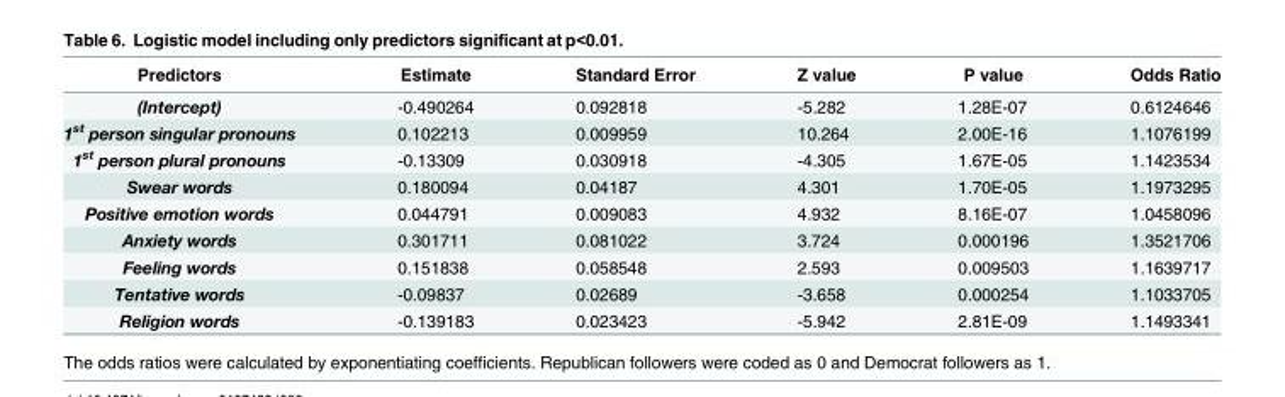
<table><thead><tr><td>Predictors</td><td>Estimate</td><td>Standard Error</td><td>Z value</td><td>P value</td><td>Odds Ratio</td></tr></thead><tbody><tr><td>(Intercept)</td><td>-0.490264</td><td>0.092818</td><td>-5.282</td><td>1.28E-07</td><td>0.6124646</td></tr><tr><td>1<sup>st</sup> person singular pronouns</td><td>0.102213</td><td>0.009959</td><td>10.264</td><td>2.00E-16</td><td>1.1076199</td></tr><tr><td>1<sup>st</sup> person plural pronouns</td><td>-0.13309</td><td>0.030918</td><td>-4.305</td><td>1.67E-05</td><td>1.1423534</td></tr><tr><td>Swear words</td><td>0.180094</td><td>0.04187</td><td>4.301</td><td>1.70E-05</td><td>1.1973295</td></tr><tr><td>Positive emotion words</td><td>0.044791</td><td>0.009083</td><td>4.932</td><td>8.16E-07</td><td>1.0458096</td></tr><tr><td>Anxiety words</td><td>0.301711</td><td>0.081022</td><td>3.724</td><td>0.000196</td><td>1.3521706</td></tr><tr><td>Feeling words</td><td>0.151838</td><td>0.058548</td><td>2.593</td><td>0.009503</td><td>1.1639717</td></tr><tr><td>Tentative words</td><td>-0.09837</td><td>0.02689</td><td>-3.658</td><td>0.000254</td><td>1.1033705</td></tr><tr><td>Religion words</td><td>-0.139183</td><td>0.023423</td><td>-5.942</td><td>2.81E-09</td><td>1.1493341</td></tr></tbody></table>